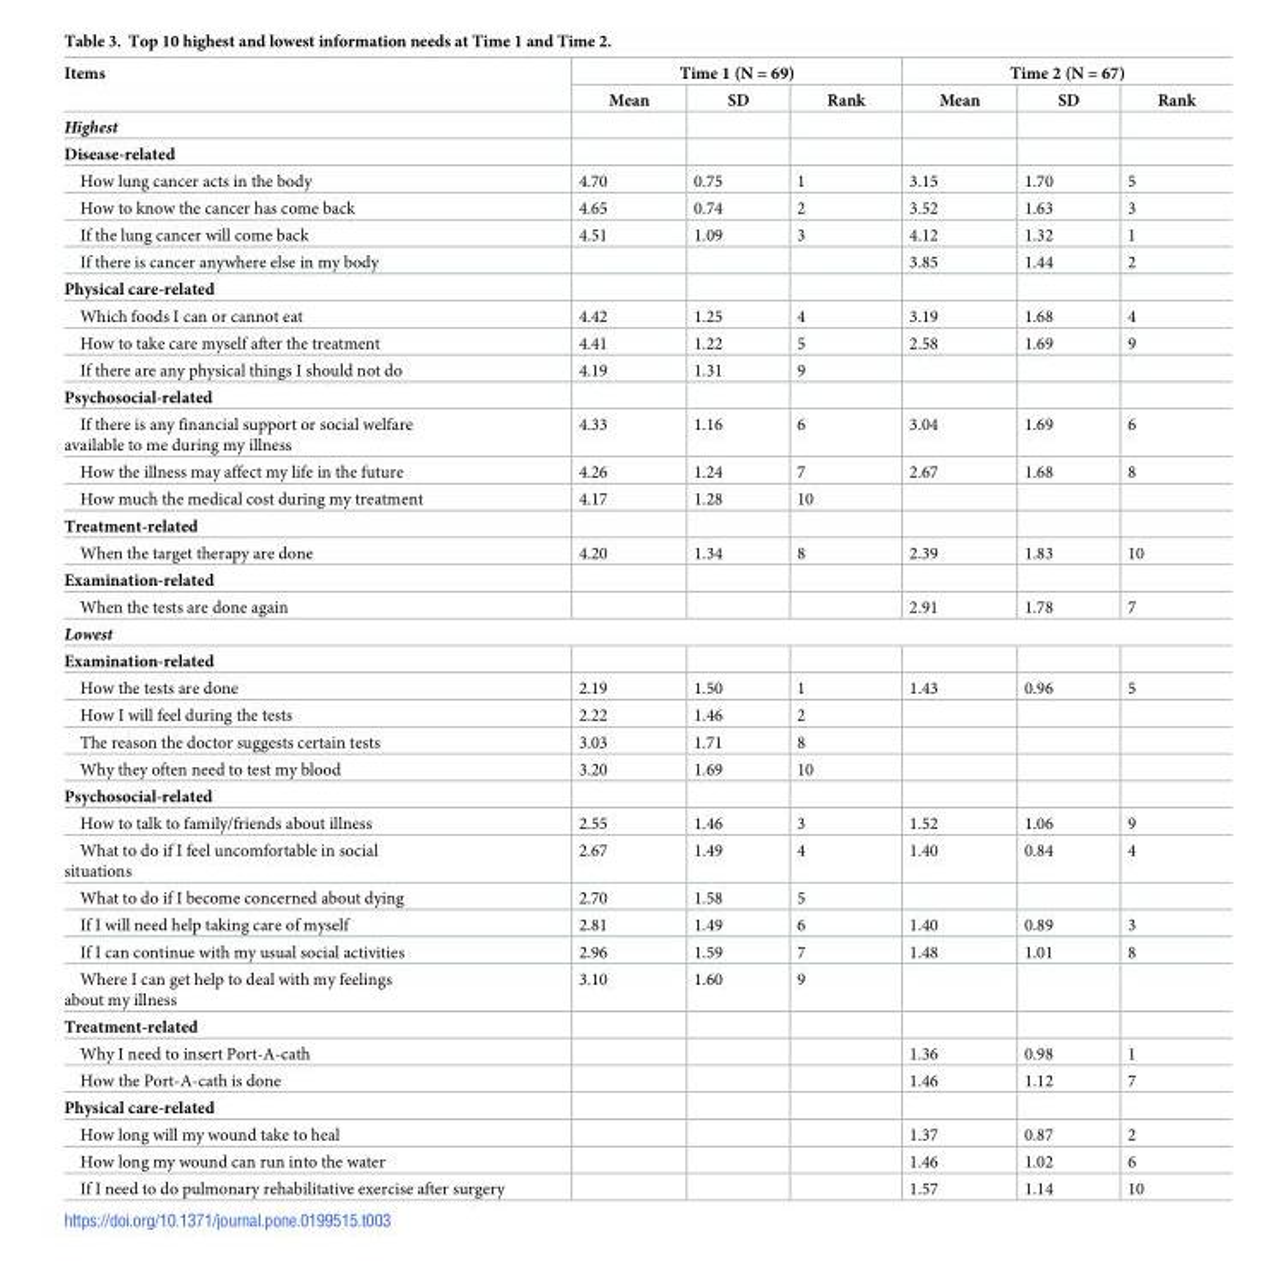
<table><thead><tr><td rowspan="2">Items</td><td colspan="3">Time 1 (N = 69)</td><td colspan="3">Time 2 (N = 67)</td></tr><tr><td>Mean</td><td>SD</td><td>Rank</td><td>Mean</td><td>SD</td><td>Rank</td></tr></thead><tbody><tr><td colspan="7">Highest</td></tr><tr><td colspan="7">Disease-related</td></tr><tr><td>How lung cancer acts in the body</td><td>4.70</td><td>0.75</td><td>1</td><td>3.15</td><td>1.70</td><td>5</td></tr><tr><td>How to know the cancer has come back</td><td>4.65</td><td>0.74</td><td>2</td><td>3.52</td><td>1.63</td><td>3</td></tr><tr><td>If the lung cancer will come back</td><td>4.51</td><td>1.09</td><td>3</td><td>4.12</td><td>1.32</td><td>1</td></tr><tr><td>If there is cancer anywhere else in my body</td><td></td><td></td><td></td><td>3.85</td><td>1.44</td><td>2</td></tr><tr><td colspan="7">Physical care-related</td></tr><tr><td>Which foods I can or cannot eat</td><td>4.42</td><td>1.25</td><td>4</td><td>3.19</td><td>1.68</td><td>4</td></tr><tr><td>How to take care myself after the treatment</td><td>4.41</td><td>1.22</td><td>5</td><td>2.58</td><td>1.69</td><td>9</td></tr><tr><td>If there are any physical things I should not do</td><td>4.19</td><td>1.31</td><td>9</td><td></td><td></td><td></td></tr><tr><td colspan="7">Psychosocial-related</td></tr><tr><td>If there is any financial support or social welfare available to me during my illness</td><td>4.33</td><td>1.16</td><td>6</td><td>3.04</td><td>1.69</td><td>6</td></tr><tr><td>How the illness may affect my life in the future</td><td>4.26</td><td>1.24</td><td>7</td><td>2.67</td><td>1.68</td><td>8</td></tr><tr><td>How much the medical cost during my treatment</td><td>4.17</td><td>1.28</td><td>10</td><td></td><td></td><td></td></tr><tr><td colspan="7">Treatment-related</td></tr><tr><td>When the target therapy are done</td><td>4.20</td><td>1.34</td><td>8</td><td>2.39</td><td>1.83</td><td>10</td></tr><tr><td colspan="7">Examination-related</td></tr><tr><td>When the tests are done again</td><td></td><td></td><td></td><td>2.91</td><td>1.78</td><td>7</td></tr><tr><td colspan="7">Lowest</td></tr><tr><td colspan="7">Examination-related</td></tr><tr><td>How the tests are done</td><td>2.19</td><td>1.50</td><td>1</td><td>1.43</td><td>0.96</td><td>5</td></tr><tr><td>How I will feel during the tests</td><td>2.22</td><td>1.46</td><td>2</td><td></td><td></td><td></td></tr><tr><td>The reason the doctor suggests certain tests</td><td>3.03</td><td>1.71</td><td>8</td><td></td><td></td><td></td></tr><tr><td>Why they often need to test my blood</td><td>3.20</td><td>1.69</td><td>10</td><td></td><td></td><td></td></tr><tr><td colspan="7">Psychosocial-related</td></tr><tr><td>How to talk to family/friends about illness</td><td>2.55</td><td>1.46</td><td>3</td><td>1.52</td><td>1.06</td><td>9</td></tr><tr><td>What to do if I feel uncomfortable in social situations</td><td>2.67</td><td>1.49</td><td>4</td><td>1.40</td><td>0.84</td><td>4</td></tr><tr><td>What to do if I become concerned about dying</td><td>2.70</td><td>1.58</td><td>5</td><td></td><td></td><td></td></tr><tr><td>If I will need help taking care of myself</td><td>2.81</td><td>1.49</td><td>6</td><td>1.40</td><td>0.89</td><td>3</td></tr><tr><td>If I can continue with my usual social activities</td><td>2.96</td><td>1.59</td><td>7</td><td>1.48</td><td>1.01</td><td>8</td></tr><tr><td>Where I can get help to deal with my feelings about my illness</td><td>3.10</td><td>1.60</td><td>9</td><td></td><td></td><td></td></tr><tr><td colspan="7">Treatment-related</td></tr><tr><td>Why I need to insert Port-A-cath</td><td></td><td></td><td></td><td>1.36</td><td>0.98</td><td>1</td></tr><tr><td>How the Port-A-cath is done</td><td></td><td></td><td></td><td>1.46</td><td>1.12</td><td>7</td></tr><tr><td colspan="7">Physical care-related</td></tr><tr><td>How long will my wound take to heal</td><td></td><td></td><td></td><td>1.37</td><td>0.87</td><td>2</td></tr><tr><td>How long my wound can run into the water</td><td></td><td></td><td></td><td>1.46</td><td>1.02</td><td>6</td></tr><tr><td>If I need to do pulmonary rehabilitative exercise after surgery</td><td></td><td></td><td></td><td>1.57</td><td>1.14</td><td>10</td></tr></tbody></table>